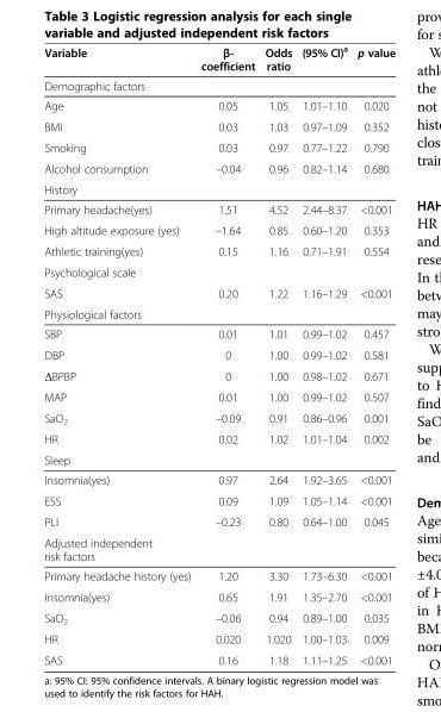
<table><thead><tr><td>Variable</td><td>β- coefficient</td><td>Odds ratio</td><td>(95% CI)<sup>a</sup></td><td>p value</td></tr></thead><tbody><tr><td colspan="5">Demographic factors</td></tr><tr><td>Age</td><td>0.05</td><td>1.05</td><td>1.01–1.10</td><td>0.020</td></tr><tr><td>BMI</td><td>0.03</td><td>1.03</td><td>0.97–1.09</td><td>0.352</td></tr><tr><td>Smoking</td><td>0.03</td><td>0.97</td><td>0.77–1.22</td><td>0.790</td></tr><tr><td>Alcohol consumption</td><td>–0.04</td><td>0.96</td><td>0.82–1.14</td><td>0.680</td></tr><tr><td colspan="5">History</td></tr><tr><td>Primary headache(yes)</td><td>1.51</td><td>4.52</td><td>2.44–8.37</td><td>&lt;0.001</td></tr><tr><td>High altitude exposure (yes)</td><td>–1.64</td><td>0.85</td><td>0.60–1.20</td><td>0.353</td></tr><tr><td>Athletic training(yes)</td><td>0.15</td><td>1.16</td><td>0.71–1.91</td><td>0.554</td></tr><tr><td colspan="5">Psychological scale</td></tr><tr><td>SAS</td><td>0.20</td><td>1.22</td><td>1.16–1.29</td><td>&lt;0.001</td></tr><tr><td colspan="5">Physiological factors</td></tr><tr><td>SBP</td><td>0.01</td><td>1.01</td><td>0.99–1.02</td><td>0.457</td></tr><tr><td>DBP</td><td>0</td><td>1.00</td><td>0.99–1.02</td><td>0.581</td></tr><tr><td>ΔBPBP</td><td>0</td><td>1.00</td><td>0.98–1.02</td><td>0.671</td></tr><tr><td>MAP</td><td>0.01</td><td>1.00</td><td>0.99–1.02</td><td>0.507</td></tr><tr><td>SaO<sub>2</sub></td><td>–0.09</td><td>0.91</td><td>0.86–0.96</td><td>0.001</td></tr><tr><td>HR</td><td>0.02</td><td>1.02</td><td>1.01–1.04</td><td>0.002</td></tr><tr><td colspan="5">Sleep</td></tr><tr><td>Insomnia(yes)</td><td>0.97</td><td>2.64</td><td>1.92–3.65</td><td>&lt;0.001</td></tr><tr><td>ESS</td><td>0.09</td><td>1.09</td><td>1.05–1.14</td><td>&lt;0.001</td></tr><tr><td>PLI</td><td>–0.23</td><td>0.80</td><td>0.64–1.00</td><td>0.045</td></tr><tr><td colspan="5">Adjusted independent risk factors</td></tr><tr><td>Primary headache history (yes)</td><td>1.20</td><td>3.30</td><td>1.73–6.30</td><td>&lt;0.001</td></tr><tr><td>Insomnia(yes)</td><td>0.65</td><td>1.91</td><td>1.35–2.70</td><td>&lt;0.001</td></tr><tr><td>SaO<sub>2</sub></td><td>–0.06</td><td>0.94</td><td>0.89–1.00</td><td>0.035</td></tr><tr><td>HR</td><td>0.020</td><td>1.020</td><td>1.00–1.03</td><td>0.009</td></tr><tr><td>SAS</td><td>0.16</td><td>1.18</td><td>1.11–1.25</td><td>&lt;0.001</td></tr></tbody></table>